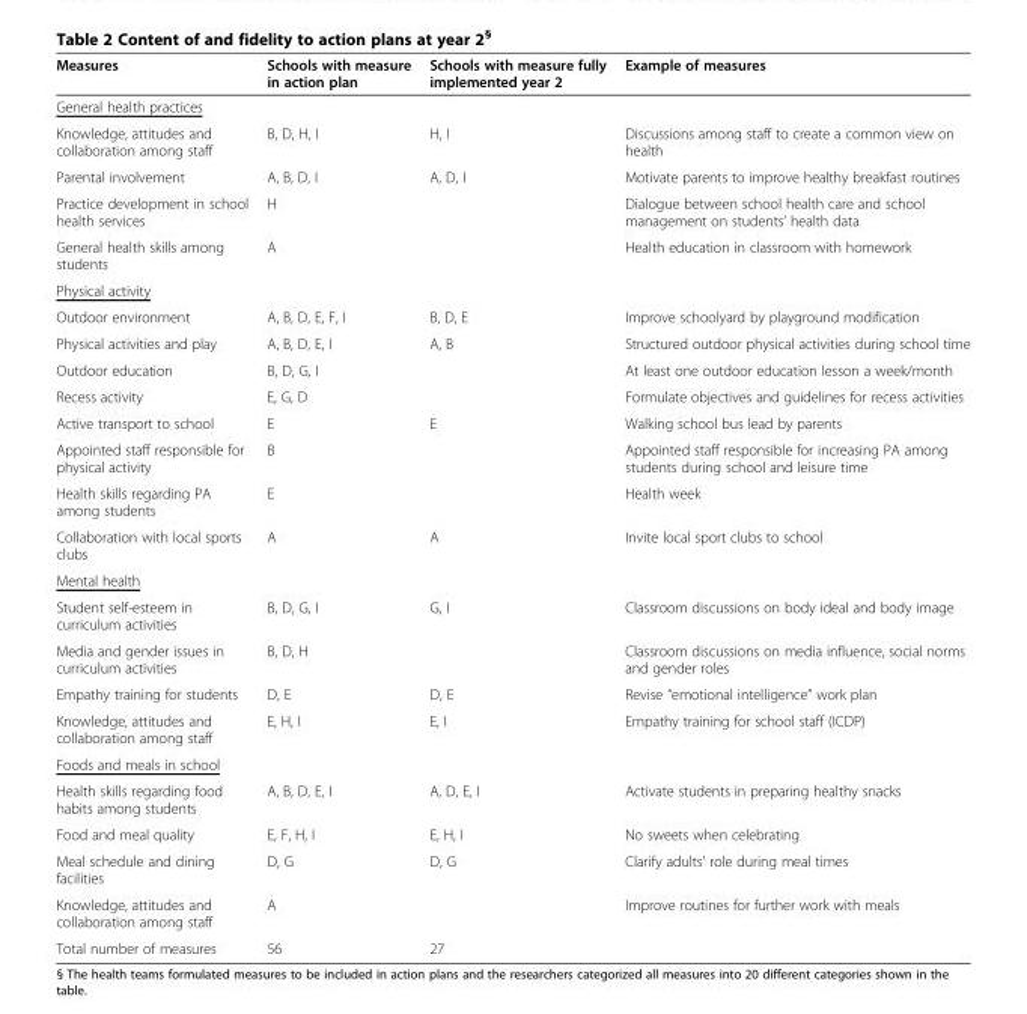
<table><thead><tr><td>Measures</td><td>Schools with measure in action plan</td><td>Schools with measure fully implemented year 2</td><td>Example of measures</td></tr></thead><tbody><tr><td colspan="4">General health practices</td></tr><tr><td>Knowledge, attitudes and collaboration among staff</td><td>B, D, H, I</td><td>H, I</td><td>Discussions among staff to create a common view on health</td></tr><tr><td>Parental involvement</td><td>A, B, D, I</td><td>A, D, I</td><td>Motivate parents to improve healthy breakfast routines</td></tr><tr><td>Practice development in school health services</td><td>H</td><td></td><td>Dialogue between school health care and school management on students’ health data</td></tr><tr><td>General health skills among students</td><td>A</td><td></td><td>Health education in classroom with homework</td></tr><tr><td colspan="4">Physical activity</td></tr><tr><td>Outdoor environment</td><td>A, B, D, E, F, I</td><td>B, D, E</td><td>Improve schoolyard by playground modification</td></tr><tr><td>Physical activities and play</td><td>A, B, D, E, I</td><td>A, B</td><td>Structured outdoor physical activities during school time</td></tr><tr><td>Outdoor education</td><td>B, D, G, I</td><td></td><td>At least one outdoor education lesson a week/month</td></tr><tr><td>Recess activity</td><td>E, G, D</td><td></td><td>Formulate objectives and guidelines for recess activities</td></tr><tr><td>Active transport to school</td><td>E</td><td>E</td><td>Walking school bus lead by parents</td></tr><tr><td>Appointed staff responsible for physical activity</td><td>B</td><td></td><td>Appointed staff responsible for increasing PA among students during school and leisure time</td></tr><tr><td>Health skills regarding PA among students</td><td>E</td><td></td><td>Health week</td></tr><tr><td>Collaboration with local sports clubs</td><td>A</td><td>A</td><td>Invite local sport clubs to school</td></tr><tr><td colspan="4">Mental health</td></tr><tr><td>Student self-esteem in curriculum activities</td><td>B, D, G, I</td><td>G, I</td><td>Classroom discussions on body ideal and body image</td></tr><tr><td>Media and gender issues in curriculum activities</td><td>B, D, H</td><td></td><td>Classroom discussions on media influence, social norms and gender roles</td></tr><tr><td>Empathy training for students</td><td>D, E</td><td>D, E</td><td>Revise “emotional intelligence” work plan</td></tr><tr><td>Knowledge, attitudes and collaboration among staff</td><td>E, H, I</td><td>E, I</td><td>Empathy training for school staff (ICDP)</td></tr><tr><td colspan="4">Foods and meals in school</td></tr><tr><td>Health skills regarding food habits among students</td><td>A, B, D, E, I</td><td>A, D, E, I</td><td>Activate students in preparing healthy snacks</td></tr><tr><td>Food and meal quality</td><td>E, F, H, I</td><td>E, H, I</td><td>No sweets when celebrating</td></tr><tr><td>Meal schedule and dining facilities</td><td>D, G</td><td>D, G</td><td>Clarify adults’ role during meal times</td></tr><tr><td>Knowledge, attitudes and collaboration among staff</td><td>A</td><td></td><td>Improve routines for further work with meals</td></tr><tr><td>Total number of measures</td><td>56</td><td>27</td><td></td></tr></tbody></table>